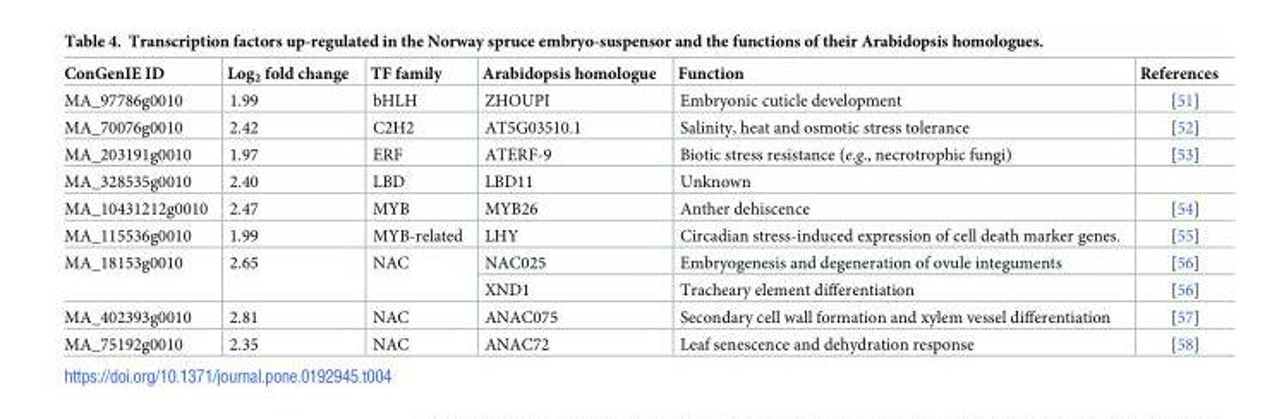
<table><thead><tr><td>ConGenIE ID</td><td>Log<sub>2</sub> fold change</td><td>TF family</td><td>Arabidopsis homologue</td><td>Function</td><td>References</td></tr></thead><tbody><tr><td>MA_97786g0010</td><td>1.99</td><td>bHLH</td><td>ZHOUPI</td><td>Embryonic cuticle development</td><td>[51]</td></tr><tr><td>MA_70076g0010</td><td>2.42</td><td>C2H2</td><td>AT5G03510.1</td><td>Salinity, heat and osmotic stress tolerance</td><td>[52]</td></tr><tr><td>MA_203191g0010</td><td>1.97</td><td>ERF</td><td>ATERF-9</td><td>Biotic stress resistance (e.g., necrotrophic fungi)</td><td>[53]</td></tr><tr><td>MA_328535g0010</td><td>2.40</td><td>LBD</td><td>LBD11</td><td>Unknown</td><td></td></tr><tr><td>MA_10431212g0010</td><td>2.47</td><td>MYB</td><td>MYB26</td><td>Anther dehiscence</td><td>[54]</td></tr><tr><td>MA_115536g0010</td><td>1.99</td><td>MYB-related</td><td>LHY</td><td>Circadian stress-induced expression of cell death marker genes.</td><td>[55]</td></tr><tr><td rowspan="2">MA_18153g0010</td><td rowspan="2">2.65</td><td rowspan="2">NAC</td><td>NAC025</td><td>Embryogenesis and degeneration of ovule integuments</td><td>[56]</td></tr><tr><td>XND1</td><td>Tracheary element differentiation</td><td>[56]</td></tr><tr><td>MA_402393g0010</td><td>2.81</td><td>NAC</td><td>ANAC075</td><td>Secondary cell wall formation and xylem vessel differentiation</td><td>[57]</td></tr><tr><td>MA_75192g0010</td><td>2.35</td><td>NAC</td><td>ANAC72</td><td>Leaf senescence and dehydration response</td><td>[58]</td></tr></tbody></table>